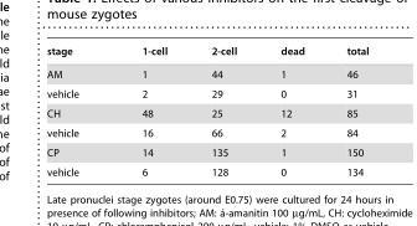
<table><thead><tr><td>stage</td><td>1-cell</td><td>2-cell</td><td>dead</td><td>total</td></tr></thead><tbody><tr><td>AM</td><td>1</td><td>44</td><td>1</td><td>46</td></tr><tr><td>vehicle</td><td>2</td><td>29</td><td>0</td><td>31</td></tr><tr><td>CH</td><td>48</td><td>25</td><td>12</td><td>85</td></tr><tr><td>vehicle</td><td>16</td><td>66</td><td>2</td><td>84</td></tr><tr><td>CP</td><td>14</td><td>135</td><td>1</td><td>150</td></tr><tr><td>vehicle</td><td>6</td><td>128</td><td>0</td><td>134</td></tr></tbody></table>